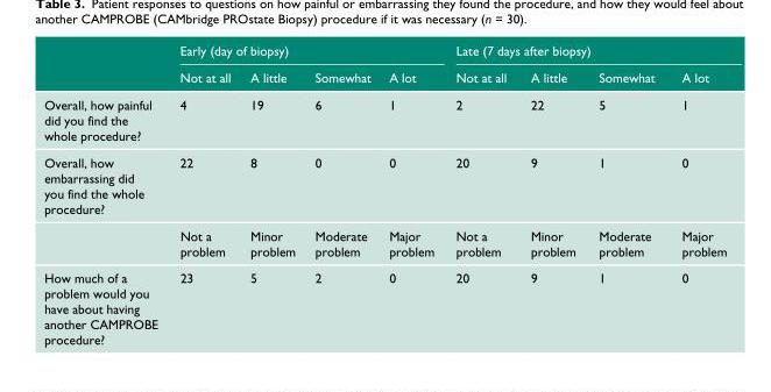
<table><thead><tr><td rowspan="2"></td><td colspan="4">Early (day of biopsy)</td><td colspan="4">Late (7 days after biopsy)</td></tr><tr><td>Not at all</td><td>A little</td><td>Somewhat</td><td>A lot</td><td>Not at all</td><td>A little</td><td>Somewhat</td><td>A lot</td></tr></thead><tbody><tr><td>Overall, how painful did you find the whole procedure?</td><td>4</td><td>19</td><td>6</td><td>1</td><td>2</td><td>22</td><td>5</td><td>1</td></tr><tr><td rowspan="2">Overall, how embarrassing did you find the whole procedure?</td><td>22</td><td>8</td><td>0</td><td>0</td><td>20</td><td>9</td><td>1</td><td>0</td></tr><tr><td>Not a problem</td><td>Minor problem</td><td>Moderate problem</td><td>Major problem</td><td>Not a problem</td><td>Minor problem</td><td>Moderate problem</td><td>Major problem</td></tr><tr><td>How much of a problem would you have about having another CAMPROBE procedure?</td><td>23</td><td>5</td><td>2</td><td>0</td><td>20</td><td>9</td><td>1</td><td>0</td></tr></tbody></table>